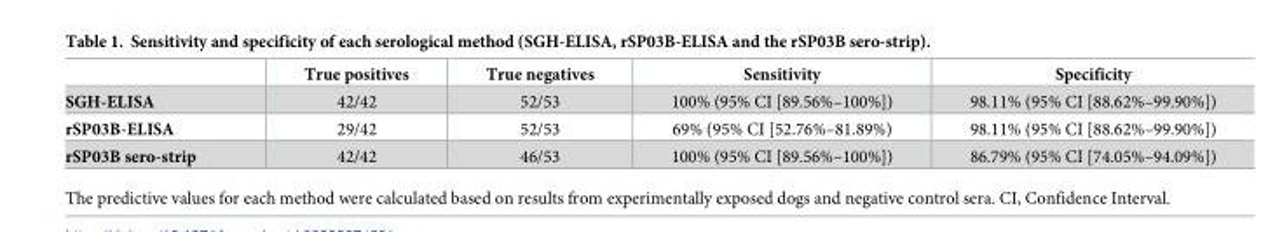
<table><thead><tr><td></td><td>True positives</td><td>True negatives</td><td>Sensitivity</td><td>Specificity</td></tr></thead><tbody><tr><td>SGH-ELISA</td><td>42/42</td><td>52/53</td><td>100% (95% CI [89.56%–100%])</td><td>98.11% (95% CI [88.62%–99.90%])</td></tr><tr><td>rSP03B-ELISA</td><td>29/42</td><td>52/53</td><td>69% (95% CI [52.76%–81.89%)</td><td>98.11% (95% CI [88.62%–99.90%])</td></tr><tr><td>rSP03B sero-strip</td><td>42/42</td><td>46/53</td><td>100% (95% CI [89.56%–100%])</td><td>86.79% (95% CI [74.05%–94.09%])</td></tr></tbody></table>